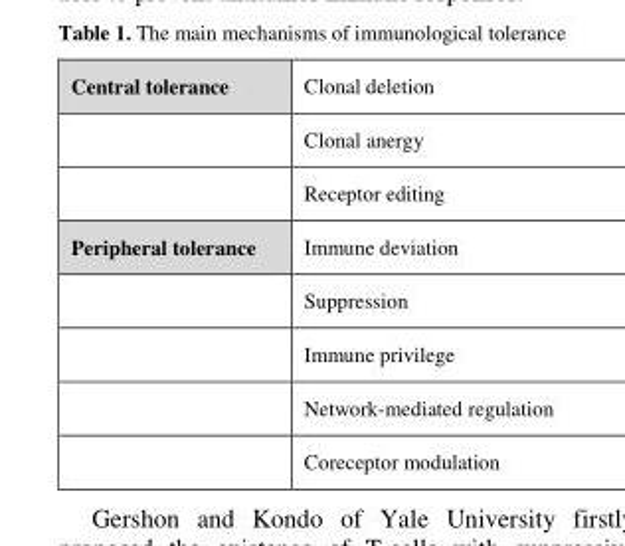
<table><tbody><tr><td rowspan="3">Central tolerance</td><td>Clonal deletion</td></tr><tr><td>Clonal anergy</td></tr><tr><td>Receptor editing</td></tr><tr><td rowspan="5">Peripheral tolerance</td><td>Immune deviation</td></tr><tr><td>Suppression</td></tr><tr><td>Immune privilege</td></tr><tr><td>Network-mediated regulation</td></tr><tr><td>Coreceptor modulation</td></tr></tbody></table>